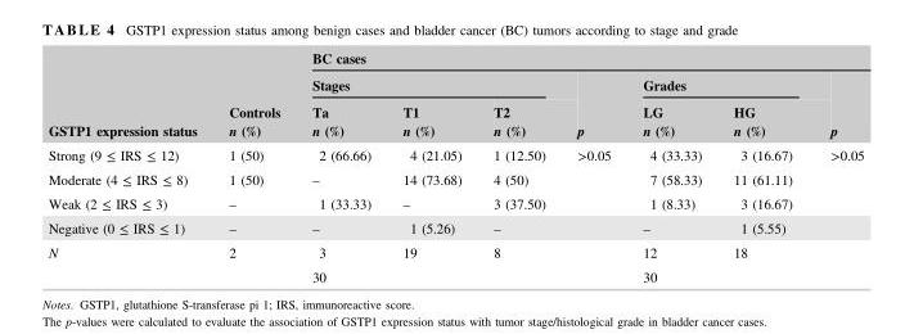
<table><thead><tr><td rowspan="3">GSTP1 expression status</td><td rowspan="3">Controls n (%)</td><td colspan="7">BC cases</td></tr><tr><td colspan="3">Stages</td><td rowspan="2">p</td><td colspan="2">Grades</td><td rowspan="2">p</td></tr><tr><td>Ta n (%)</td><td>T1 n (%)</td><td>T2 n (%)</td><td>LG n (%)</td><td>HG n (%)</td></tr></thead><tbody><tr><td>Strong (9 ≤ IRS ≤ 12)</td><td>1 (50)</td><td>2 (66.66)</td><td>4 (21.05)</td><td>1 (12.50)</td><td>&gt;0.05</td><td>4 (33.33)</td><td>3 (16.67)</td><td rowspan="3">&gt;0.05</td></tr><tr><td>Moderate (4 ≤ IRS ≤ 8)</td><td>1 (50)</td><td>–</td><td>14 (73.68)</td><td>4 (50)</td><td></td><td>7 (58.33)</td><td>11 (61.11)</td></tr><tr><td>Weak (2 ≤ IRS ≤ 3)</td><td>–</td><td>1 (33.33)</td><td>–</td><td>3 (37.50)</td><td></td><td>1 (8.33)</td><td>3 (16.67)</td></tr><tr><td>Negative (0 ≤ IRS ≤ 1)</td><td>–</td><td>–</td><td>1 (5.26)</td><td>–</td><td></td><td>–</td><td>1 (5.55)</td><td></td></tr><tr><td rowspan="2">N</td><td rowspan="2">2</td><td>3</td><td>19</td><td>8</td><td rowspan="2"></td><td>12</td><td>18</td><td rowspan="2"></td></tr><tr><td colspan="3">30</td><td colspan="2">30</td></tr></tbody></table>